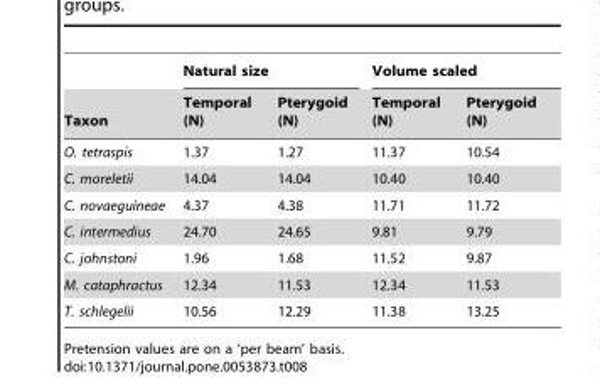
<table><thead><tr><td rowspan="2">Taxon</td><td colspan="2">Natural size</td><td colspan="2">Volume scaled</td></tr><tr><td>Temporal (N)</td><td>Pterygoid (N)</td><td>Temporal (N)</td><td>Pterygoid (N)</td></tr></thead><tbody><tr><td>O. tetraspis</td><td>1.37</td><td>1.27</td><td>11.37</td><td>10.54</td></tr><tr><td>C. moreletii</td><td>14.04</td><td>14.04</td><td>10.40</td><td>10.40</td></tr><tr><td>C. novaeguineae</td><td>4.37</td><td>4.38</td><td>11.71</td><td>11.72</td></tr><tr><td>C. intermedius</td><td>24.70</td><td>24.65</td><td>9.81</td><td>9.79</td></tr><tr><td>C. johnstoni</td><td>1.96</td><td>1.68</td><td>11.52</td><td>9.87</td></tr><tr><td>M. cataphractus</td><td>12.34</td><td>11.53</td><td>12.34</td><td>11.53</td></tr><tr><td>T. schlegelii</td><td>10.56</td><td>12.29</td><td>11.38</td><td>13.25</td></tr></tbody></table>